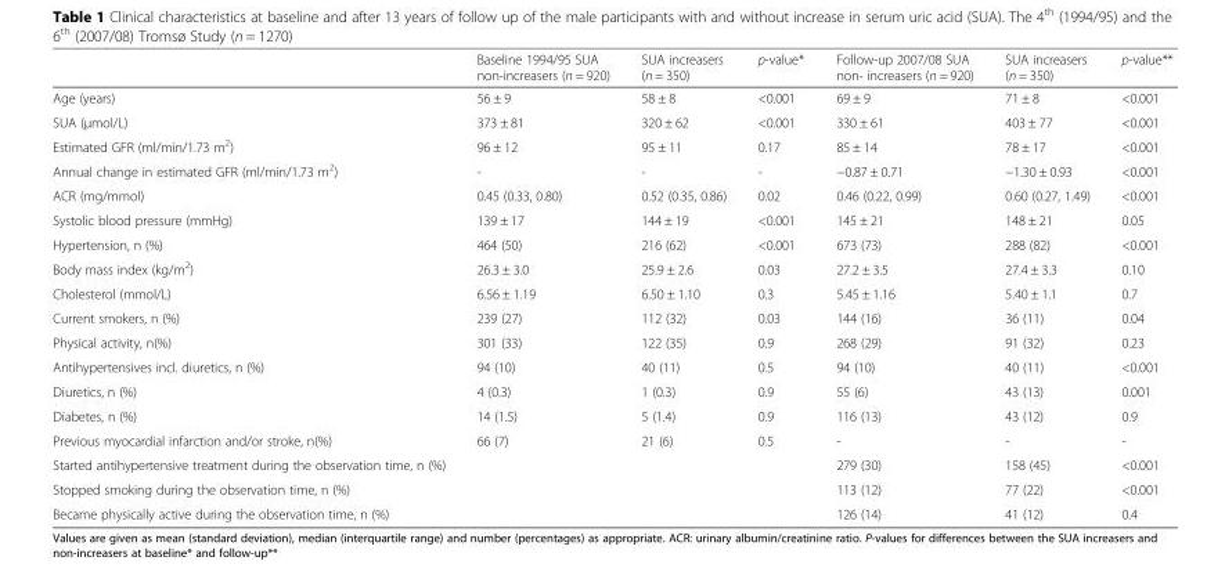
<table><thead><tr><td></td><td>Baseline 1994/95 SUA non-increasers (n = 920)</td><td>SUA increasers (n = 350)</td><td>p-value*</td><td>Follow-up 2007/08 SUA non- increasers (n = 920)</td><td>SUA increasers (n = 350)</td><td>p-value**</td></tr></thead><tbody><tr><td>Age (years)</td><td>56 ± 9</td><td>58 ± 8</td><td>&lt;0.001</td><td>69 ± 9</td><td>71 ± 8</td><td>&lt;0.001</td></tr><tr><td>SUA (μmol/L)</td><td>373 ± 81</td><td>320 ± 62</td><td>&lt;0.001</td><td>330 ± 61</td><td>403 ± 77</td><td>&lt;0.001</td></tr><tr><td>Estimated GFR (ml/min/1.73 m<sup>2</sup>)</td><td>96 ± 12</td><td>95 ± 11</td><td>0.17</td><td>85 ± 14</td><td>78 ± 17</td><td>&lt;0.001</td></tr><tr><td>Annual change in estimated GFR (ml/min/1.73 m<sup>2</sup>)</td><td>-</td><td>-</td><td>-</td><td>−0.87 ± 0.71</td><td>−1.30 ± 0.93</td><td>&lt;0.001</td></tr><tr><td>ACR (mg/mmol)</td><td>0.45 (0.33, 0.80)</td><td>0.52 (0.35, 0.86)</td><td>0.02</td><td>0.46 (0.22, 0.99)</td><td>0.60 (0.27, 1.49)</td><td>&lt;0.001</td></tr><tr><td>Systolic blood pressure (mmHg)</td><td>139 ± 17</td><td>144 ± 19</td><td>&lt;0.001</td><td>145 ± 21</td><td>148 ± 21</td><td>0.05</td></tr><tr><td>Hypertension, n (%)</td><td>464 (50)</td><td>216 (62)</td><td>&lt;0.001</td><td>673 (73)</td><td>288 (82)</td><td>&lt;0.001</td></tr><tr><td>Body mass index (kg/m<sup>2</sup>)</td><td>26.3 ± 3.0</td><td>25.9 ± 2.6</td><td>0.03</td><td>27.2 ± 3.5</td><td>27.4 ± 3.3</td><td>0.10</td></tr><tr><td>Cholesterol (mmol/L)</td><td>6.56 ± 1.19</td><td>6.50 ± 1.10</td><td>0.3</td><td>5.45 ± 1.16</td><td>5.40 ± 1.1</td><td>0.7</td></tr><tr><td>Current smokers, n (%)</td><td>239 (27)</td><td>112 (32)</td><td>0.03</td><td>144 (16)</td><td>36 (11)</td><td>0.04</td></tr><tr><td>Physical activity, n(%)</td><td>301 (33)</td><td>122 (35)</td><td>0.9</td><td>268 (29)</td><td>91 (32)</td><td>0.23</td></tr><tr><td>Antihypertensives incl. diuretics, n (%)</td><td>94 (10)</td><td>40 (11)</td><td>0.5</td><td>94 (10)</td><td>40 (11)</td><td>&lt;0.001</td></tr><tr><td>Diuretics, n (%)</td><td>4 (0.3)</td><td>1 (0.3)</td><td>0.9</td><td>55 (6)</td><td>43 (13)</td><td>0.001</td></tr><tr><td>Diabetes, n (%)</td><td>14 (1.5)</td><td>5 (1.4)</td><td>0.9</td><td>116 (13)</td><td>43 (12)</td><td>0.9</td></tr><tr><td>Previous myocardial infarction and/or stroke, n(%)</td><td>66 (7)</td><td>21 (6)</td><td>0.5</td><td>-</td><td>-</td><td>-</td></tr><tr><td>Started antihypertensive treatment during the observation time, n (%)</td><td></td><td></td><td></td><td>279 (30)</td><td>158 (45)</td><td>&lt;0.001</td></tr><tr><td>Stopped smoking during the observation time, n (%)</td><td></td><td></td><td></td><td>113 (12)</td><td>77 (22)</td><td>&lt;0.001</td></tr><tr><td>Became physically active during the observation time, n (%)</td><td></td><td></td><td></td><td>126 (14)</td><td>41 (12)</td><td>0.4</td></tr></tbody></table>